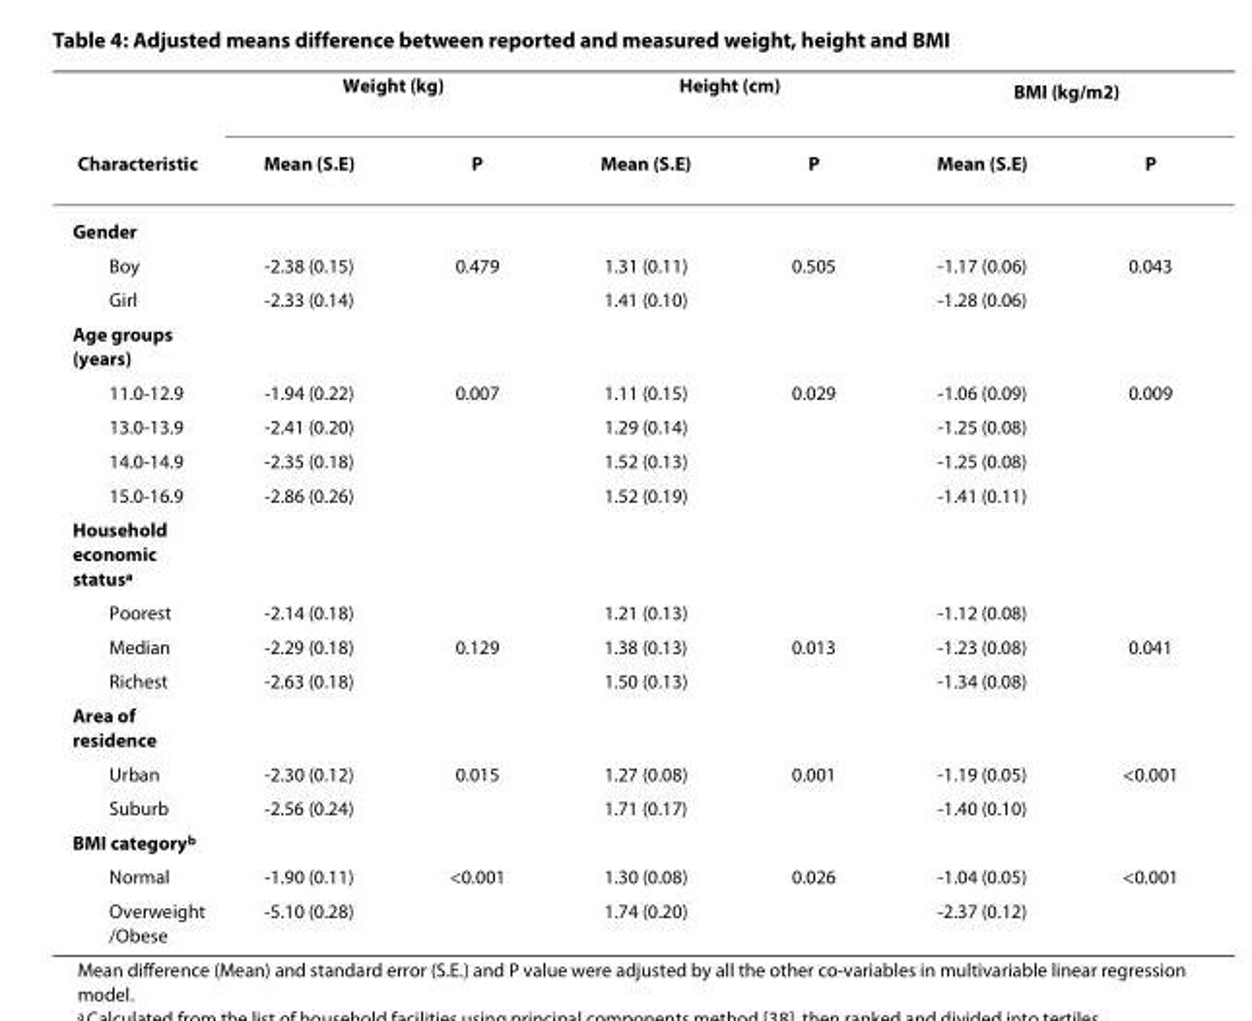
<table><thead><tr><td rowspan="2">Characteristic</td><td colspan="2">Weight (kg)</td><td colspan="2">Height (cm)</td><td colspan="2">BMI (kg/m<sup>2</sup>)</td></tr><tr><td>Mean (S.E)</td><td>P</td><td>Mean (S.E)</td><td>P</td><td>Mean (S.E)</td><td>P</td></tr></thead><tbody><tr><td colspan="7">Gender</td></tr><tr><td>Boy</td><td>-2.38 (0.15)</td><td>0.479</td><td>1.31 (0.11)</td><td>0.505</td><td>-1.17 (0.06)</td><td>0.043</td></tr><tr><td>Girl</td><td>-2.33 (0.14)</td><td></td><td>1.41 (0.10)</td><td></td><td>-1.28 (0.06)</td><td></td></tr><tr><td colspan="7">Age groups (years)</td></tr><tr><td>11.0-12.9</td><td>-1.94 (0.22)</td><td>0.007</td><td>1.11 (0.15)</td><td>0.029</td><td>-1.06 (0.09)</td><td>0.009</td></tr><tr><td>13.0-13.9</td><td>-2.41 (0.20)</td><td></td><td>1.29 (0.14)</td><td></td><td>-1.25 (0.08)</td><td></td></tr><tr><td>14.0-14.9</td><td>-2.35 (0.18)</td><td></td><td>1.52 (0.13)</td><td></td><td>-1.25 (0.08)</td><td></td></tr><tr><td>15.0-16.9</td><td>-2.86 (0.26)</td><td></td><td>1.52 (0.19)</td><td></td><td>-1.41 (0.11)</td><td></td></tr><tr><td colspan="7">Household economic status<sup>a</sup></td></tr><tr><td>Poorest</td><td>-2.14 (0.18)</td><td></td><td>1.21 (0.13)</td><td></td><td>-1.12 (0.08)</td><td></td></tr><tr><td>Median</td><td>-2.29 (0.18)</td><td>0.129</td><td>1.38 (0.13)</td><td>0.013</td><td>-1.23 (0.08)</td><td>0.041</td></tr><tr><td>Richest</td><td>-2.63 (0.18)</td><td></td><td>1.50 (0.13)</td><td></td><td>-1.34 (0.08)</td><td></td></tr><tr><td colspan="7">Area of residence</td></tr><tr><td>Urban</td><td>-2.30 (0.12)</td><td>0.015</td><td>1.27 (0.08)</td><td>0.001</td><td>-1.19 (0.05)</td><td>&lt;0.001</td></tr><tr><td>Suburb</td><td>-2.56 (0.24)</td><td></td><td>1.71 (0.17)</td><td></td><td>-1.40 (0.10)</td><td></td></tr><tr><td colspan="7">BMI category<sup>b</sup></td></tr><tr><td>Normal</td><td>-1.90 (0.11)</td><td>&lt;0.001</td><td>1.30 (0.08)</td><td>0.026</td><td>-1.04 (0.05)</td><td>&lt;0.001</td></tr><tr><td>Overweight /Obese</td><td>-5.10 (0.28)</td><td></td><td>1.74 (0.20)</td><td></td><td>-2.37 (0.12)</td><td></td></tr></tbody></table>